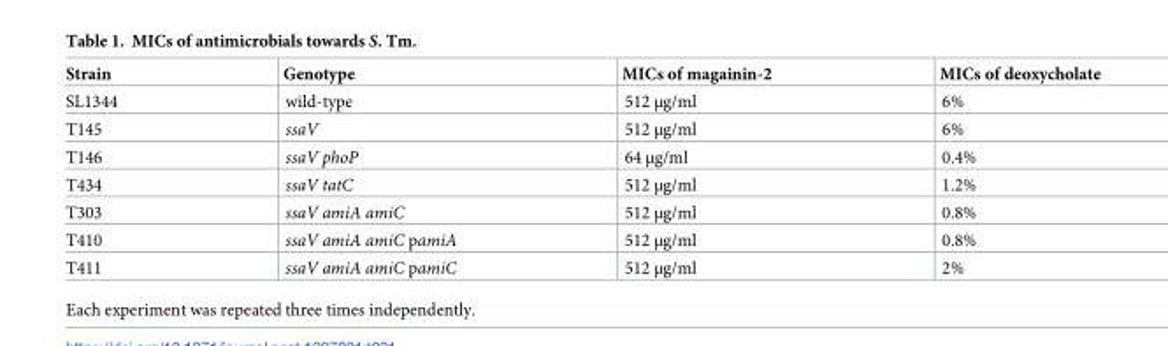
<table><thead><tr><td>Strain</td><td>Genotype</td><td>MICs of magainin-2</td><td>MICs of deoxycholate</td></tr></thead><tbody><tr><td>SL1344</td><td>wild-type</td><td>512 μg/ml</td><td>6%</td></tr><tr><td>T145</td><td>ssaV</td><td>512 μg/ml</td><td>6%</td></tr><tr><td>T146</td><td>ssaV phoP</td><td>64 μg/ml</td><td>0.4%</td></tr><tr><td>T434</td><td>ssaV tatC</td><td>512 μg/ml</td><td>1.2%</td></tr><tr><td>T303</td><td>ssaV amiA amiC</td><td>512 μg/ml</td><td>0.8%</td></tr><tr><td>T410</td><td>ssaV amiA amiC pamiA</td><td>512 μg/ml</td><td>0.8%</td></tr><tr><td>T411</td><td>ssaV amiA amiC pamiC</td><td>512 μg/ml</td><td>2%</td></tr></tbody></table>